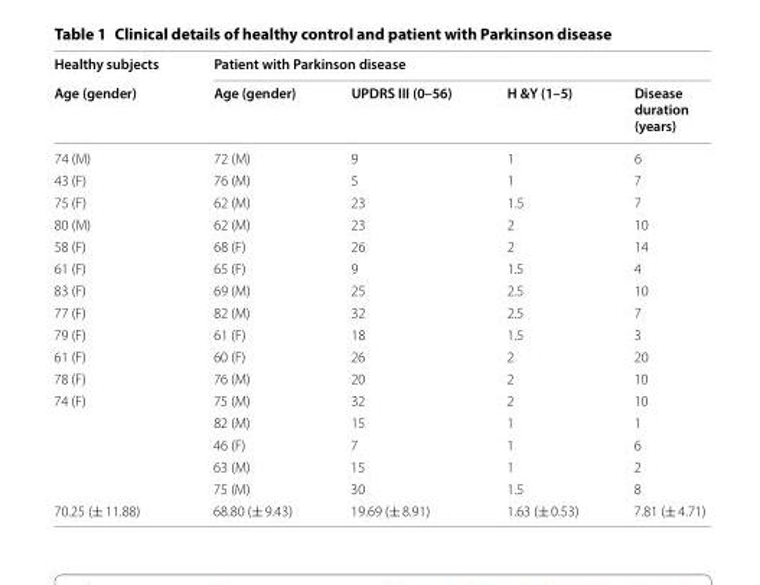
<table><thead><tr><td rowspan="2">Healthy subjects Age (gender)</td><td colspan="4">Patient with Parkinson disease</td></tr><tr><td>Age (gender)</td><td>UPDRS III (0–56)</td><td>H &amp;Y (1–5)</td><td>Disease duration (years)</td></tr></thead><tbody><tr><td>74 (M)</td><td>72 (M)</td><td>9</td><td>1</td><td>6</td></tr><tr><td>43 (F)</td><td>76 (M)</td><td>5</td><td>1</td><td>7</td></tr><tr><td>75 (F)</td><td>62 (M)</td><td>23</td><td>1.5</td><td>7</td></tr><tr><td>80 (M)</td><td>62 (M)</td><td>23</td><td>2</td><td>10</td></tr><tr><td>58 (F)</td><td>68 (F)</td><td>26</td><td>2</td><td>14</td></tr><tr><td>61 (F)</td><td>65 (F)</td><td>9</td><td>1.5</td><td>4</td></tr><tr><td>83 (F)</td><td>69 (M)</td><td>25</td><td>2.5</td><td>10</td></tr><tr><td>77 (F)</td><td>82 (M)</td><td>32</td><td>2.5</td><td>7</td></tr><tr><td>79 (F)</td><td>61 (F)</td><td>18</td><td>1.5</td><td>3</td></tr><tr><td>61 (F)</td><td>60 (F)</td><td>26</td><td>2</td><td>20</td></tr><tr><td>78 (F)</td><td>76 (M)</td><td>20</td><td>2</td><td>10</td></tr><tr><td rowspan="5">74 (F)</td><td>75 (M)</td><td>32</td><td>2</td><td>10</td></tr><tr><td>82 (M)</td><td>15</td><td>1</td><td>1</td></tr><tr><td>46 (F)</td><td>7</td><td>1</td><td>6</td></tr><tr><td>63 (M)</td><td>15</td><td>1</td><td>2</td></tr><tr><td>75 (M)</td><td>30</td><td>1.5</td><td>8</td></tr><tr><td>70.25 (± 11.88)</td><td>68.80 (± 9.43)</td><td>19.69 (± 8.91)</td><td>1.63 (± 0.53)</td><td>7.81 (± 4.71)</td></tr></tbody></table>